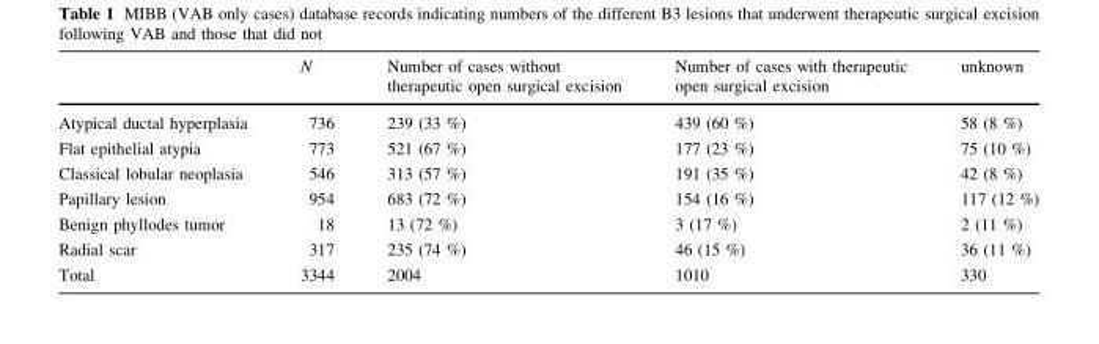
<table><thead><tr><td></td><td>N</td><td>Number of cases without therapeutic open surgical excision</td><td>Number of cases with therapeutic open surgical excision</td><td>unknown</td></tr></thead><tbody><tr><td>Atypical ductal hyperplasia</td><td>736</td><td>239 (33 %)</td><td>439 (60 %)</td><td>58 (8 %)</td></tr><tr><td>Flat epithelial atypia</td><td>773</td><td>521 (67 %)</td><td>177 (23 %)</td><td>75 (10 %)</td></tr><tr><td>Classical lobular neoplasia</td><td>546</td><td>313 (57 %)</td><td>191 (35 %)</td><td>42 (8 %)</td></tr><tr><td>Papillary lesion</td><td>954</td><td>683 (72 %)</td><td>154 (16 %)</td><td>117 (12 %)</td></tr><tr><td>Benign phyllodes tumor</td><td>18</td><td>13 (72 %)</td><td>3 (17 %)</td><td>2 (11 %)</td></tr><tr><td>Radial scar</td><td>317</td><td>235 (74 %)</td><td>46 (15 %)</td><td>36 (11 %)</td></tr><tr><td>Total</td><td>3344</td><td>2004</td><td>1010</td><td>330</td></tr></tbody></table>